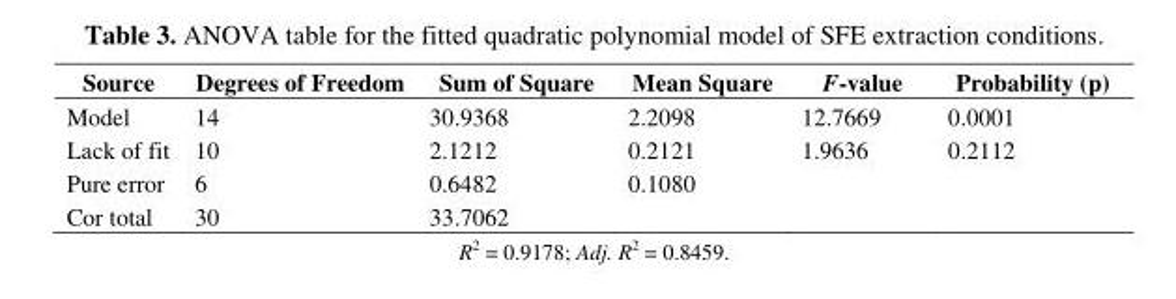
<table><thead><tr><td>Source</td><td>Degrees of Freedom</td><td>Sum of Square</td><td>Mean Square</td><td>F-value</td><td>Probability (p)</td></tr></thead><tbody><tr><td>Model</td><td>14</td><td>30.9368</td><td>2.2098</td><td>12.7669</td><td>0.0001</td></tr><tr><td>Lack of fit</td><td>10</td><td>2.1212</td><td>0.2121</td><td>1.9636</td><td>0.2112</td></tr><tr><td>Pure error</td><td>6</td><td>0.6482</td><td>0.1080</td><td></td><td></td></tr><tr><td>Cor total</td><td>30</td><td>33.7062</td><td></td><td></td><td></td></tr></tbody></table>